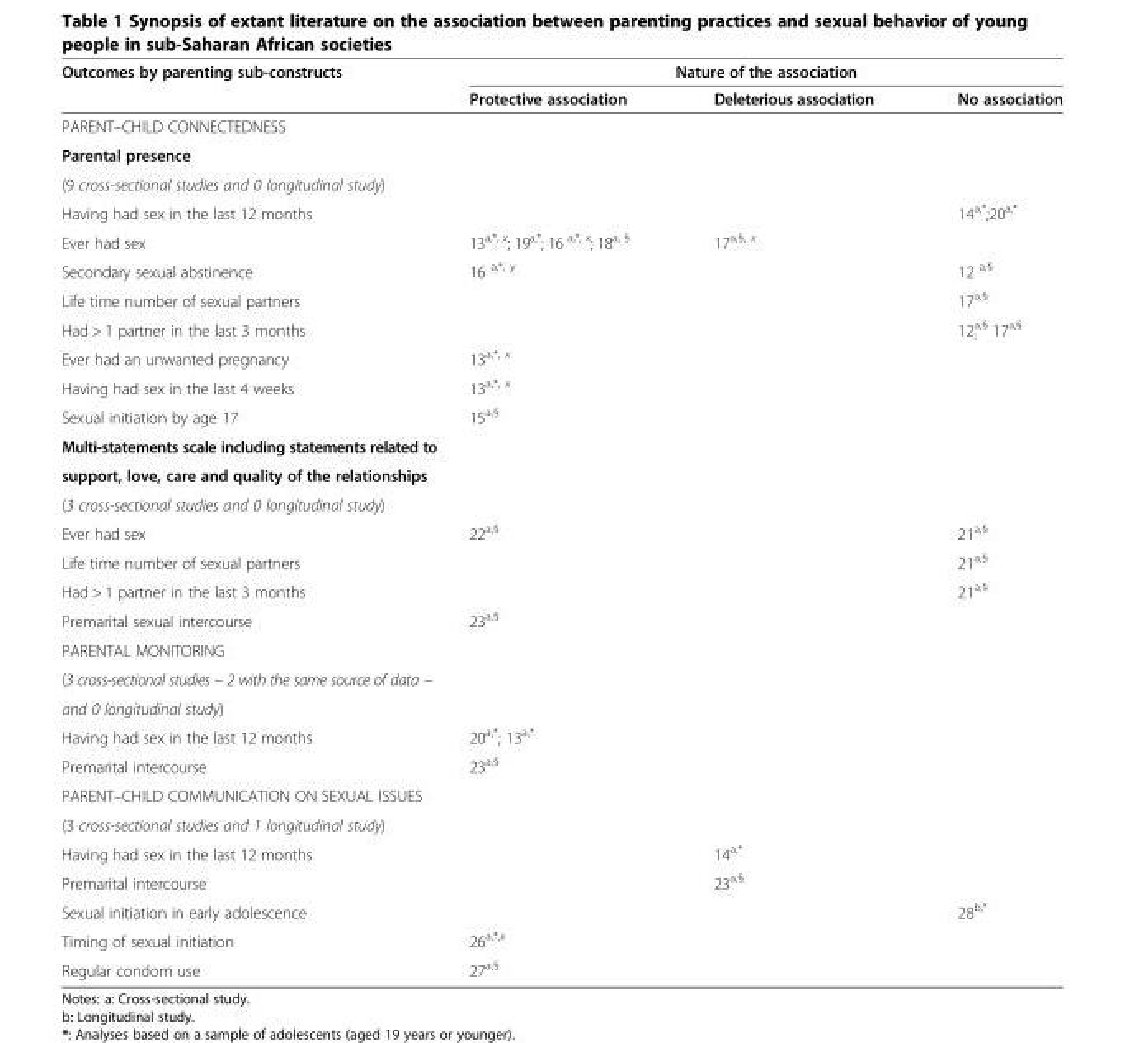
<table><thead><tr><td rowspan="2">Outcomes by parenting sub-constructs</td><td colspan="3">Nature of the association</td></tr><tr><td>Protective association</td><td>Deleterious association</td><td>No association</td></tr></thead><tbody><tr><td colspan="4">PARENT–CHILD CONNECTEDNESS</td></tr><tr><td colspan="4">Parental presence</td></tr><tr><td colspan="4">(9 cross-sectional studies and 0 longitudinal study)</td></tr><tr><td>Having had sex in the last 12 months</td><td></td><td></td><td>14<sup>a,*</sup>;20<sup>a,*</sup></td></tr><tr><td>Ever had sex</td><td>13<sup>a,*, x</sup>; 19<sup>a,*</sup>; 16 <sup>a,*, x</sup>; 18<sup>a, §</sup></td><td>17<sup>a,§, x</sup></td><td></td></tr><tr><td>Secondary sexual abstinence</td><td>16 <sup>a,*, y</sup></td><td></td><td>12 <sup>a,§</sup></td></tr><tr><td>Life time number of sexual partners</td><td></td><td></td><td>17<sup>a,§</sup></td></tr><tr><td>Had &gt; 1 partner in the last 3 months</td><td></td><td></td><td>12<sup>a,§</sup> <sub>;</sub> 17<sup>a,§</sup></td></tr><tr><td>Ever had an unwanted pregnancy</td><td>13<sup>a,*, x</sup></td><td></td><td></td></tr><tr><td>Having had sex in the last 4 weeks</td><td>13<sup>a,*, x</sup></td><td></td><td></td></tr><tr><td>Sexual initiation by age 17</td><td>15<sup>a,§</sup></td><td></td><td></td></tr><tr><td colspan="4">Multi-statements scale including statements related to</td></tr><tr><td colspan="4">support, love, care and quality of the relationships</td></tr><tr><td colspan="4">(3 cross-sectional studies and 0 longitudinal study)</td></tr><tr><td>Ever had sex</td><td>22<sup>a,§</sup></td><td></td><td>21<sup>a,§</sup></td></tr><tr><td>Life time number of sexual partners</td><td></td><td></td><td>21<sup>a,§</sup></td></tr><tr><td>Had &gt; 1 partner in the last 3 months</td><td></td><td></td><td>21<sup>a,§</sup></td></tr><tr><td>Premarital sexual intercourse</td><td>23<sup>a,§</sup></td><td></td><td></td></tr><tr><td colspan="4">PARENTAL MONITORING</td></tr><tr><td colspan="4">(3 cross-sectional studies – 2 with the same source of data −</td></tr><tr><td colspan="4">and 0 longitudinal study)</td></tr><tr><td>Having had sex in the last 12 months</td><td>20<sup>a,*</sup>; 13<sup>a,*</sup></td><td></td><td></td></tr><tr><td>Premarital intercourse</td><td>23<sup>a,§</sup></td><td></td><td></td></tr><tr><td colspan="4">PARENT–CHILD COMMUNICATION ON SEXUAL ISSUES</td></tr><tr><td colspan="4">(3 cross-sectional studies and 1 longitudinal study)</td></tr><tr><td>Having had sex in the last 12 months</td><td></td><td>14<sup>a,*</sup></td><td></td></tr><tr><td>Premarital intercourse</td><td></td><td>23<sup>a,§</sup></td><td></td></tr><tr><td>Sexual initiation in early adolescence</td><td></td><td></td><td>28<sup>b,*</sup></td></tr><tr><td>Timing of sexual initiation</td><td>26<sup>a,*,x</sup></td><td></td><td></td></tr><tr><td>Regular condom use</td><td>27<sup>a,§</sup></td><td></td><td></td></tr></tbody></table>